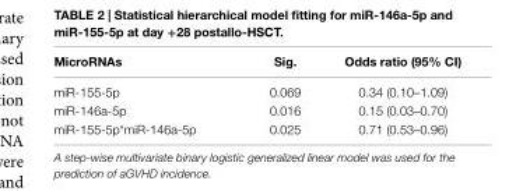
<table><thead><tr><td>Micrornas</td><td>sig.</td><td>Odds ratio (95% ci)</td></tr></thead><tbody><tr><td>miR-155-5p</td><td>0.069</td><td>0.34 (0.10–1.09)</td></tr><tr><td>miR-146a-5p</td><td>0.016</td><td>0.15 (0.03–0.70)</td></tr><tr><td>miR-155-5p*miR-146a-5p</td><td>0.025</td><td>0.71 (0.53–0.96)</td></tr></tbody></table>